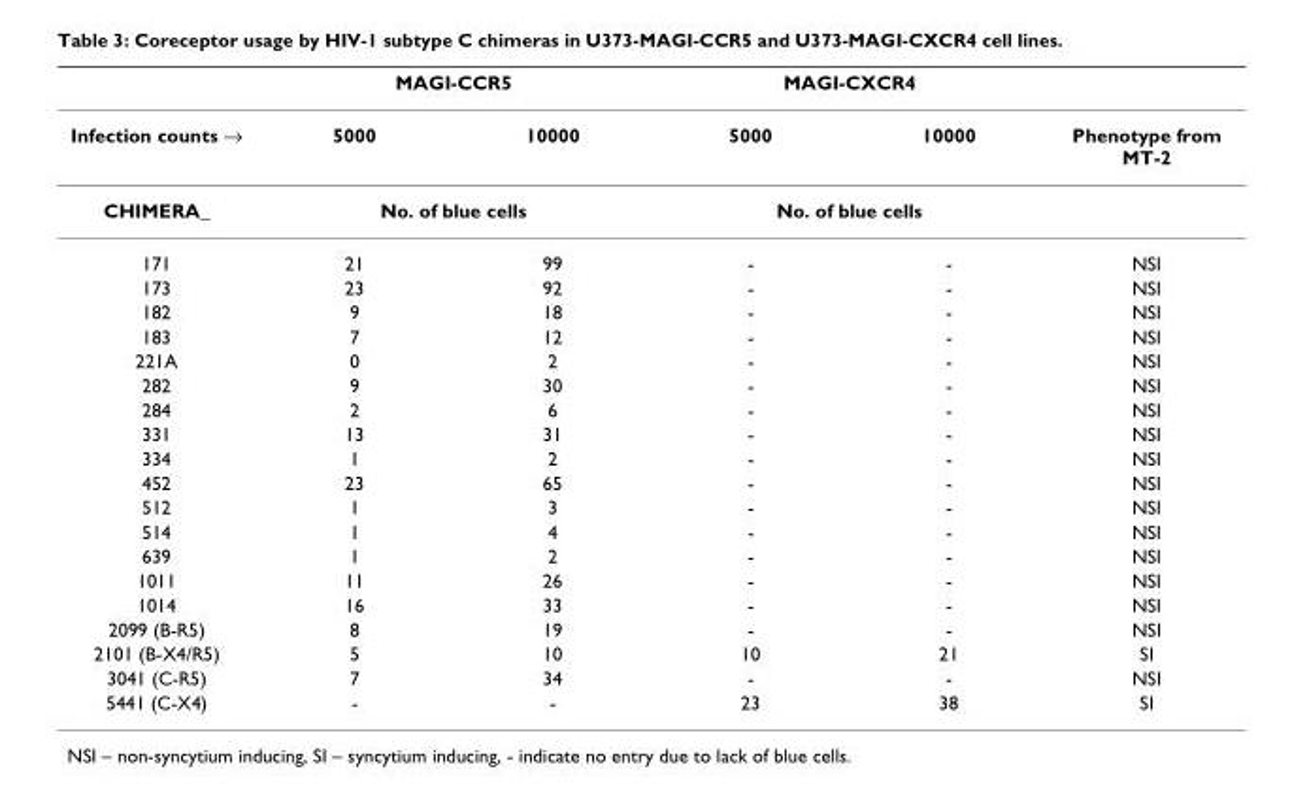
<table><thead><tr><td rowspan="2">Infection counts →</td><td colspan="2">MAGI-CCR5</td><td colspan="2">MAGI-CXCR4</td><td rowspan="2">Phenotype from MT-2</td></tr><tr><td>5000</td><td>10000</td><td>5000</td><td>10000</td></tr></thead><tbody><tr><td>CHIMERA_</td><td colspan="2">No. of blue cells</td><td colspan="2">No. of blue cells</td><td></td></tr><tr><td>171</td><td>21</td><td>99</td><td>-</td><td>-</td><td>NSI</td></tr><tr><td>173</td><td>23</td><td>92</td><td>-</td><td>-</td><td>NSI</td></tr><tr><td>182</td><td>9</td><td>18</td><td>-</td><td>-</td><td>NSI</td></tr><tr><td>183</td><td>7</td><td>12</td><td>-</td><td>-</td><td>NSI</td></tr><tr><td>221A</td><td>0</td><td>2</td><td>-</td><td>-</td><td>NSI</td></tr><tr><td>282</td><td>9</td><td>30</td><td>-</td><td>-</td><td>NSI</td></tr><tr><td>284</td><td>2</td><td>6</td><td>-</td><td>-</td><td>NSI</td></tr><tr><td>331</td><td>13</td><td>31</td><td>-</td><td>-</td><td>NSI</td></tr><tr><td>334</td><td>1</td><td>2</td><td>-</td><td>-</td><td>NSI</td></tr><tr><td>452</td><td>23</td><td>65</td><td>-</td><td>-</td><td>NSI</td></tr><tr><td>512</td><td>1</td><td>3</td><td>-</td><td>-</td><td>NSI</td></tr><tr><td>514</td><td>1</td><td>4</td><td>-</td><td>-</td><td>NSI</td></tr><tr><td>639</td><td>1</td><td>2</td><td>-</td><td>-</td><td>NSI</td></tr><tr><td>1011</td><td>11</td><td>26</td><td>-</td><td>-</td><td>NSI</td></tr><tr><td>1014</td><td>16</td><td>33</td><td>-</td><td>-</td><td>NSI</td></tr><tr><td>2099 (B-R5)</td><td>8</td><td>19</td><td>-</td><td>-</td><td>NSI</td></tr><tr><td>2101 (B-X4/R5)</td><td>5</td><td>10</td><td>10</td><td>21</td><td>SI</td></tr><tr><td>3041 (C-R5)</td><td>7</td><td>34</td><td>-</td><td>-</td><td>NSI</td></tr><tr><td>5441 (C-X4)</td><td>-</td><td>-</td><td>23</td><td>38</td><td>SI</td></tr></tbody></table>